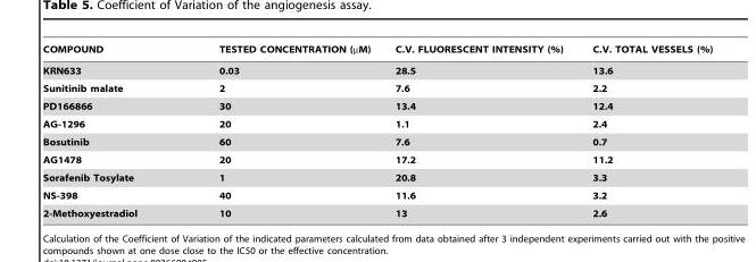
<table><thead><tr><td>COMPOUND</td><td>TESTED CONCENTRATION (µM)</td><td>C.V. FLUORESCENT INTENSITY (%)</td><td>C.V. TOTAL VESSELS (%)</td></tr></thead><tbody><tr><td>KRN633</td><td>0.03</td><td>28.5</td><td>13.6</td></tr><tr><td>Sunitinib malate</td><td>2</td><td>7.6</td><td>2.2</td></tr><tr><td>PD166866</td><td>30</td><td>13.4</td><td>12.4</td></tr><tr><td>AG-1296</td><td>20</td><td>1.1</td><td>2.4</td></tr><tr><td>Bosutinib</td><td>60</td><td>7.6</td><td>0.7</td></tr><tr><td>AG1478</td><td>20</td><td>17.2</td><td>11.2</td></tr><tr><td>Sorafenib Tosylate</td><td>1</td><td>20.8</td><td>3.3</td></tr><tr><td>NS-398</td><td>40</td><td>11.6</td><td>3.2</td></tr><tr><td>2-Methoxyestradiol</td><td>10</td><td>13</td><td>2.6</td></tr></tbody></table>